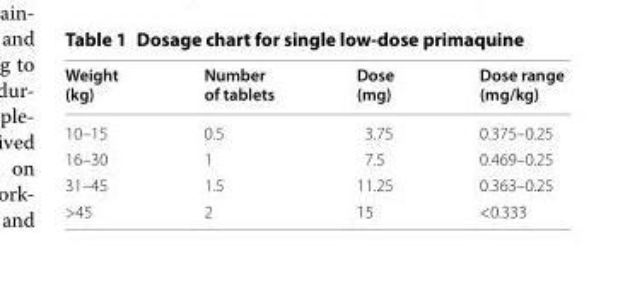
<table><thead><tr><td>Weight (kg)</td><td>Number of tablets</td><td>Dose (mg)</td><td>Dose range (mg/kg)</td></tr></thead><tbody><tr><td>10–15</td><td>0.5</td><td>3.75</td><td>0.375–0.25</td></tr><tr><td>16–30</td><td>1</td><td>7.5</td><td>0.469–0.25</td></tr><tr><td>31–45</td><td>1.5</td><td>11.25</td><td>0.363–0.25</td></tr><tr><td>&gt;45</td><td>2</td><td>15</td><td>&lt;0.333</td></tr></tbody></table>